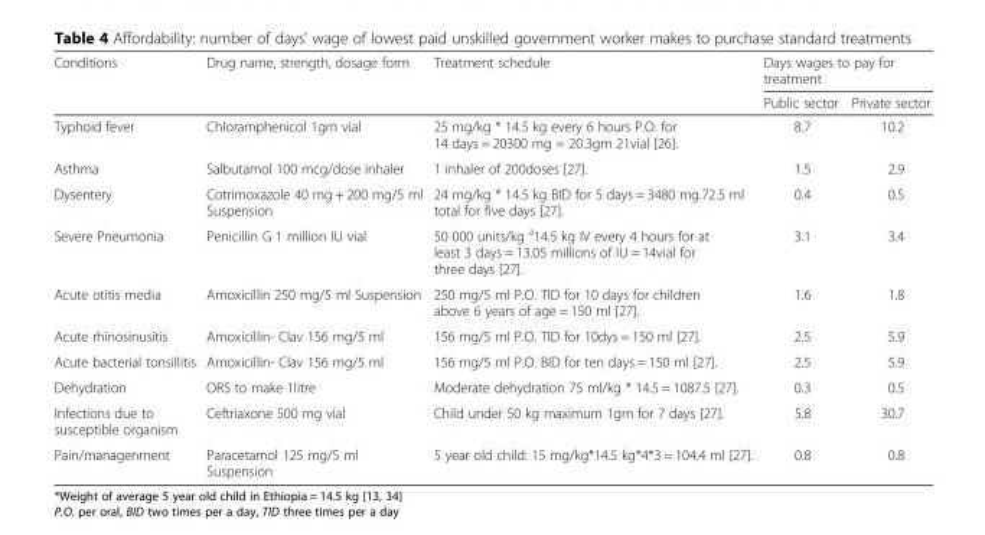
<table><thead><tr><td rowspan="2">Conditions</td><td rowspan="2">Drug name, strength, dosage form</td><td rowspan="2">Treatment schedule</td><td colspan="2">Days wages to pay for treatment</td></tr><tr><td>Public sector</td><td>Private sector</td></tr></thead><tbody><tr><td>Typhoid fever</td><td>Chloramphenicol 1gm vial</td><td>25 mg/kg * 14.5 kg every 6 hours P.O. for 14 days = 20300 mg = 20.3gm 21vial [26].</td><td>8.7</td><td>10.2</td></tr><tr><td>Asthma</td><td>Salbutamol 100 mcg/dose inhaler</td><td>1 inhaler of 200doses [27].</td><td>1.5</td><td>2.9</td></tr><tr><td>Dysentery</td><td>Cotrimoxazole 40 mg + 200 mg/5 ml Suspension</td><td>24 mg/kg * 14.5 kg BID for 5 days = 3480 mg.72.5 ml total for five days [27].</td><td>0.4</td><td>0.5</td></tr><tr><td>Severe Pneumonia</td><td>Penicillin G 1 million IU vial</td><td>50 000 units/kg <sup>a</sup>14.5 kg IV every 4 hours for at least 3 days = 13.05 millions of IU = 14vial for three days [27].</td><td>3.1</td><td>3.4</td></tr><tr><td>Acute otitis media</td><td>Amoxicillin 250 mg/5 ml Suspension</td><td>250 mg/5 ml P.O. TID for 10 days for children above 6 years of age = 150 ml [27].</td><td>1.6</td><td>1.8</td></tr><tr><td>Acute rhinosinusitis</td><td>Amoxicillin- Clav 156 mg/5 ml</td><td>156 mg/5 ml P.O. TID for 10dys = 150 ml [27].</td><td>2.5</td><td>5.9</td></tr><tr><td>Acute bacterial tonsillitis</td><td>Amoxicillin- Clav 156 mg/5 ml</td><td>156 mg/5 ml P.O. BID for ten days = 150 ml [27].</td><td>2.5</td><td>5.9</td></tr><tr><td>Dehydration</td><td>ORS to make 1litre</td><td>Moderate dehydration 75 ml/kg * 14.5 = 1087.5 [27].</td><td>0.3</td><td>0.5</td></tr><tr><td>Infections due to susceptible organism</td><td>Ceftriaxone 500 mg vial</td><td>Child under 50 kg maximum 1gm for 7 days [27].</td><td>5.8</td><td>30.7</td></tr><tr><td>Pain/managenment</td><td>Paracetamol 125 mg/5 ml Suspension</td><td>5 year old child: 15 mg/kg*14.5 kg*4*3 = 104.4 ml [27].</td><td>0.8</td><td>0.8</td></tr></tbody></table>